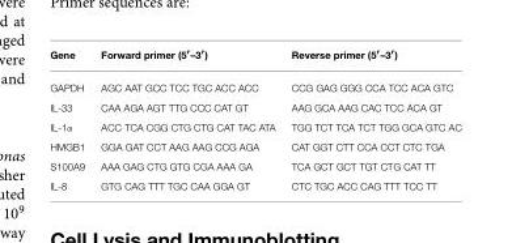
<table><thead><tr><td>Gene</td><td>Forward primer (5′–3′)</td><td>Reverse primer (5′–3′)</td></tr></thead><tbody><tr><td>GAPDH</td><td>AGC AAT GCC TCC TGC ACC ACC</td><td>CCG GAG GGG CCA TCC ACA GTC</td></tr><tr><td>IL-33</td><td>CAA AGA AGT TTG CCC CAT GT</td><td>AAG GCA AAG CAC TCC ACA GT</td></tr><tr><td>IL-1α</td><td>ACC TCA CGG CTG CTG CAT TAC ATA</td><td>TGG TCT TCA TCT TGG GCA GTC AC</td></tr><tr><td>HMGB1</td><td>GGA GAT CCT AAG AAG CCG AGA</td><td>CAT GGT CTT CCA CCT CTC TGA</td></tr><tr><td>S100A9</td><td>AAA GAG CTG GTG CGA AAA GA</td><td>TCA GCT GCT TGT CTG CAT TT</td></tr><tr><td>IL-8</td><td>GTG CAG TTT TGC CAA GGA GT</td><td>CTC TGC ACC CAG TTT TCC TT</td></tr></tbody></table>